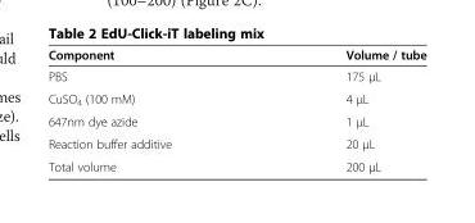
<table><thead><tr><td>Component</td><td>Volume / tube</td></tr></thead><tbody><tr><td>PBS</td><td>175 μL</td></tr><tr><td>CuSO<sub>4</sub> (100 mM)</td><td>4 μL</td></tr><tr><td>647nm dye azide</td><td>1 μL</td></tr><tr><td>Reaction buffer additive</td><td>20 μL</td></tr><tr><td>Total volume</td><td>200 μL</td></tr></tbody></table>